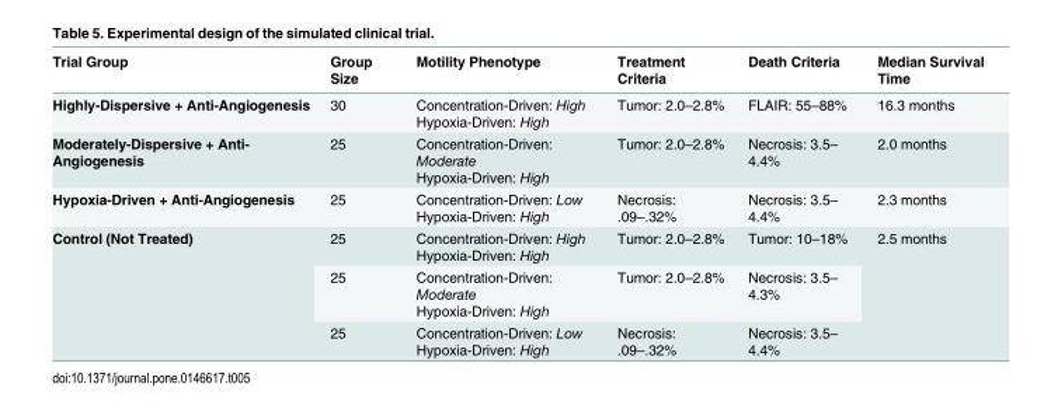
<table><thead><tr><td>Trial Group</td><td>Group Size</td><td>Motility Phenotype</td><td>Treatment Criteria</td><td>Death Criteria</td><td>Median Survival Time</td></tr></thead><tbody><tr><td>Highly-Dispersive + Anti-Angiogenesis</td><td>30</td><td>Concentration-Driven: High Hypoxia-Driven: High</td><td>Tumor: 2.0–2.8%</td><td>FLAIR: 55–88%</td><td>16.3 months</td></tr><tr><td>Moderately-Dispersive + Anti- Angiogenesis</td><td>25</td><td>Concentration-Driven: Moderate Hypoxia-Driven: High</td><td>Tumor: 2.0–2.8%</td><td>Necrosis: 3.5– 4.4%</td><td>2.0 months</td></tr><tr><td>Hypoxia-Driven + Anti-Angiogenesis</td><td>25</td><td>Concentration-Driven: Low Hypoxia-Driven: High</td><td>Necrosis: .09–.32%</td><td>Necrosis: 3.5– 4.4%</td><td>2.3 months</td></tr><tr><td rowspan="3">Control (Not Treated)</td><td>25</td><td>Concentration-Driven: High Hypoxia-Driven: High</td><td>Tumor: 2.0–2.8%</td><td>Tumor: 10–18%</td><td rowspan="3">2.5 months</td></tr><tr><td>25</td><td>Concentration-Driven: Moderate Hypoxia-Driven: High</td><td>Tumor: 2.0–2.8%</td><td>Necrosis: 3.5– 4.3%</td></tr><tr><td>25</td><td>Concentration-Driven: Low Hypoxia-Driven: High</td><td>Necrosis: .09–.32%</td><td>Necrosis: 3.5– 4.4%</td></tr></tbody></table>